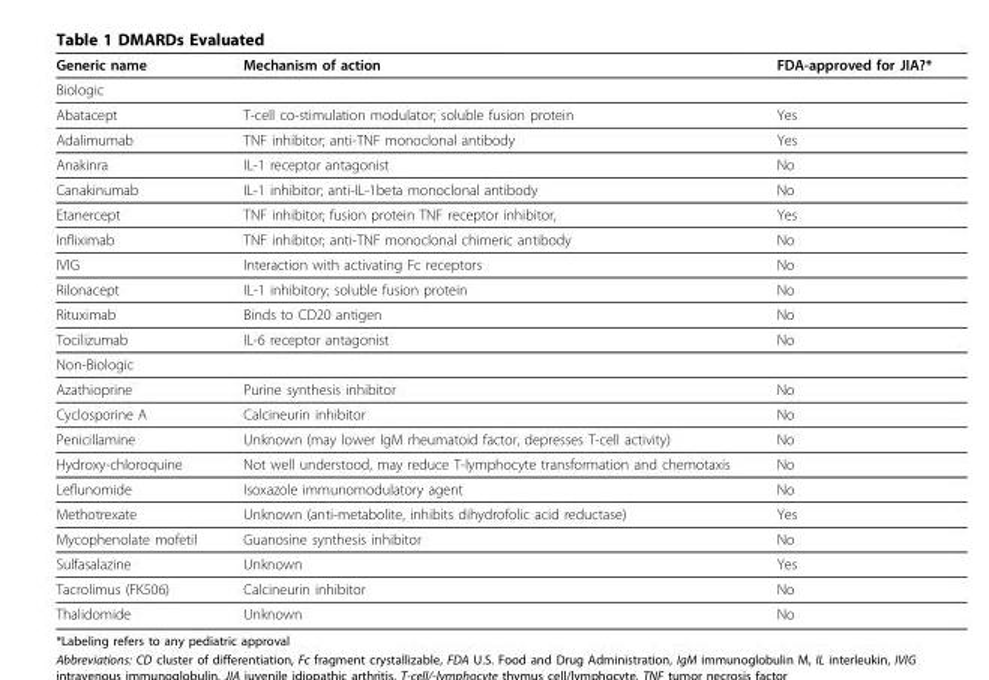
<table><thead><tr><td>Generic name</td><td>Mechanism of action</td><td>FDA-approved for JIA?*</td></tr></thead><tbody><tr><td colspan="3">Biologic</td></tr><tr><td>Abatacept</td><td>T-cell co-stimulation modulator; soluble fusion protein</td><td>Yes</td></tr><tr><td>Adalimumab</td><td>TNF inhibitor; anti-TNF monoclonal antibody</td><td>Yes</td></tr><tr><td>Anakinra</td><td>IL-1 receptor antagonist</td><td>No</td></tr><tr><td>Canakinumab</td><td>IL-1 inhibitor; anti-IL-1beta monoclonal antibody</td><td>No</td></tr><tr><td>Etanercept</td><td>TNF inhibitor; fusion protein TNF receptor inhibitor,</td><td>Yes</td></tr><tr><td>Infliximab</td><td>TNF inhibitor; anti-TNF monoclonal chimeric antibody</td><td>No</td></tr><tr><td>IVIG</td><td>Interaction with activating Fc receptors</td><td>No</td></tr><tr><td>Rilonacept</td><td>IL-1 inhibitory; soluble fusion protein</td><td>No</td></tr><tr><td>Rituximab</td><td>Binds to CD20 antigen</td><td>No</td></tr><tr><td>Tocilizumab</td><td>IL-6 receptor antagonist</td><td>No</td></tr><tr><td colspan="3">Non-Biologic</td></tr><tr><td>Azathioprine</td><td>Purine synthesis inhibitor</td><td>No</td></tr><tr><td>Cyclosporine A</td><td>Calcineurin inhibitor</td><td>No</td></tr><tr><td>Penicillamine</td><td>Unknown (may lower IgM rheumatoid factor, depresses T-cell activity)</td><td>No</td></tr><tr><td>Hydroxy-chloroquine</td><td>Not well understood, may reduce T-lymphocyte transformation and chemotaxis</td><td>No</td></tr><tr><td>Leflunomide</td><td>Isoxazole immunomodulatory agent</td><td>No</td></tr><tr><td>Methotrexate</td><td>Unknown (anti-metabolite, inhibits dihydrofolic acid reductase)</td><td>Yes</td></tr><tr><td>Mycophenolate mofetil</td><td>Guanosine synthesis inhibitor</td><td>No</td></tr><tr><td>Sulfasalazine</td><td>Unknown</td><td>Yes</td></tr><tr><td>Tacrolimus (FK506)</td><td>Calcineurin inhibitor</td><td>No</td></tr><tr><td>Thalidomide</td><td>Unknown</td><td>No</td></tr></tbody></table>